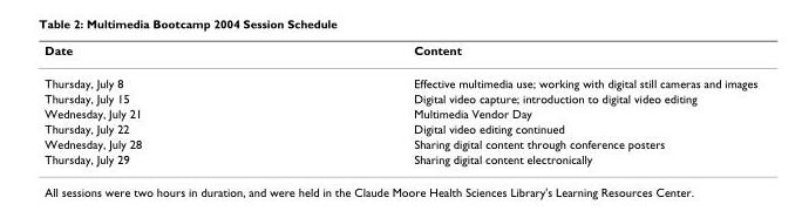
<table><thead><tr><td>Date</td><td>Content</td></tr></thead><tbody><tr><td>Thursday, July 8</td><td>Effective multimedia use; working with digital still cameras and images</td></tr><tr><td>Thursday, July 15</td><td>Digital video capture; introduction to digital video editing</td></tr><tr><td>Wednesday, July 21</td><td>Multimedia Vendor Day</td></tr><tr><td>Thursday, July 22</td><td>Digital video editing continued</td></tr><tr><td>Wednesday, July 28</td><td>Sharing digital content through conference posters</td></tr><tr><td>Thursday, July 29</td><td>Sharing digital content electronically</td></tr></tbody></table>